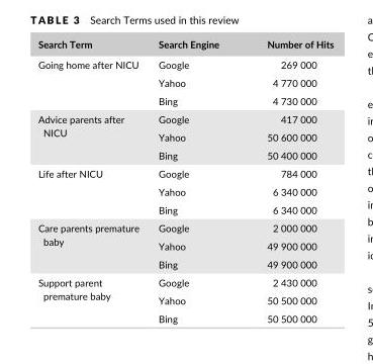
<table><thead><tr><td>Search Term</td><td>Search Engine</td><td>Number of Hits</td></tr></thead><tbody><tr><td rowspan="3">Going home after NICU</td><td>Google</td><td>269 000</td></tr><tr><td>Yahoo</td><td>4 770 000</td></tr><tr><td>Bing</td><td>4 730 000</td></tr><tr><td rowspan="3">Advice parents after NICU</td><td>Google</td><td>417 000</td></tr><tr><td>Yahoo</td><td>50 600 000</td></tr><tr><td>Bing</td><td>50 400 000</td></tr><tr><td rowspan="3">Life after NICU</td><td>Google</td><td>784 000</td></tr><tr><td>Yahoo</td><td>6 340 000</td></tr><tr><td>Bing</td><td>6 340 000</td></tr><tr><td rowspan="3">Care parents premature baby</td><td>Google</td><td>2 000 000</td></tr><tr><td>Yahoo</td><td>49 900 000</td></tr><tr><td>Bing</td><td>49 900 000</td></tr><tr><td rowspan="3">Support parent premature baby</td><td>Google</td><td>2 430 000</td></tr><tr><td>Yahoo</td><td>50 500 000</td></tr><tr><td>Bing</td><td>50 500 000</td></tr></tbody></table>